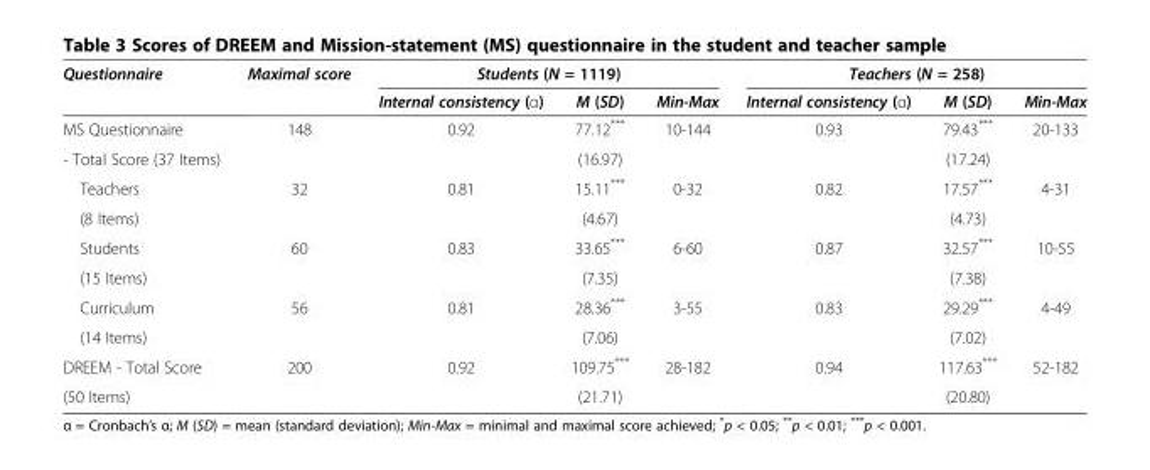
<table><thead><tr><td rowspan="2">Questionnaire</td><td rowspan="2">Maximal score</td><td colspan="3">Students (N = 1119)</td><td colspan="3">Teachers (N = 258)</td></tr><tr><td>Internal consistency (α)</td><td>M (SD)</td><td>Min-Max</td><td>Internal consistency (α)</td><td>M (SD)</td><td>Min-Max</td></tr></thead><tbody><tr><td>MS Questionnaire</td><td>148</td><td>0.92</td><td>77.12***</td><td>10-144</td><td>0.93</td><td>79.43***</td><td>20-133</td></tr><tr><td>- Total Score (37 Items)</td><td></td><td></td><td>(16.97)</td><td></td><td></td><td>(17.24)</td><td></td></tr><tr><td>Teachers</td><td>32</td><td>0.81</td><td>15.11***</td><td>0-32</td><td>0.82</td><td>17.57***</td><td>4-31</td></tr><tr><td>(8 Items)</td><td></td><td></td><td>(4.67)</td><td></td><td></td><td>(4.73)</td><td></td></tr><tr><td>Students</td><td>60</td><td>0.83</td><td>33.65***</td><td>6-60</td><td>0.87</td><td>32.57***</td><td>10-55</td></tr><tr><td>(15 Items)</td><td></td><td></td><td>(7.35)</td><td></td><td></td><td>(7.38)</td><td></td></tr><tr><td>Curriculum</td><td>56</td><td>0.81</td><td>28.36***</td><td>3-55</td><td>0.83</td><td>29.29***</td><td>4-49</td></tr><tr><td>(14 Items)</td><td></td><td></td><td>(7.06)</td><td></td><td></td><td>(7.02)</td><td></td></tr><tr><td>DREEM - Total Score</td><td>200</td><td>0.92</td><td>109.75***</td><td>28-182</td><td>0.94</td><td>117.63***</td><td>52-182</td></tr><tr><td>(50 Items)</td><td></td><td></td><td>(21.71)</td><td></td><td></td><td>(20.80)</td><td></td></tr></tbody></table>